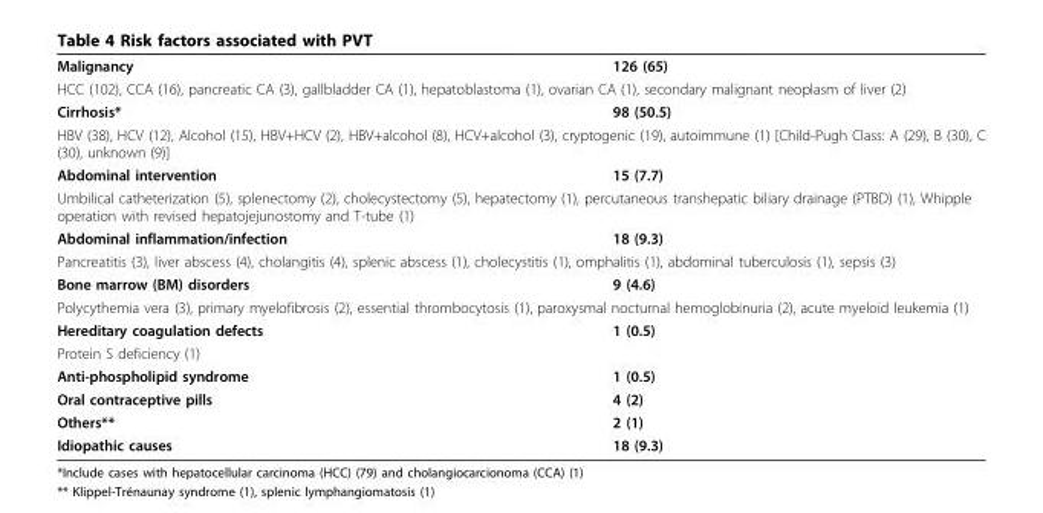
<table><tbody><tr><td>Malignancy</td><td>126 (65)</td></tr><tr><td colspan="2">HCC (102), CCA (16), pancreatic CA (3), gallbladder CA (1), hepatoblastoma (1), ovarian CA (1), secondary malignant neoplasm of liver (2)</td></tr><tr><td>Cirrhosis*</td><td>98 (50.5)</td></tr><tr><td colspan="2">HBV (38), HCV (12), Alcohol (15), HBV+HCV (2), HBV+alcohol (8), HCV+alcohol (3), cryptogenic (19), autoimmune (1) [Child-Pugh Class: A (29), B (30), C (30), unknown (9)]</td></tr><tr><td>Abdominal intervention</td><td>15 (7.7)</td></tr><tr><td colspan="2">Umbilical catheterization (5), splenectomy (2), cholecystectomy (5), hepatectomy (1), percutaneous transhepatic biliary drainage (PTBD) (1), Whipple operation with revised hepatojejunostomy and T-tube (1)</td></tr><tr><td>Abdominal inflammation/infection</td><td>18 (9.3)</td></tr><tr><td colspan="2">Pancreatitis (3), liver abscess (4), cholangitis (4), splenic abscess (1), cholecystitis (1), omphalitis (1), abdominal tuberculosis (1), sepsis (3)</td></tr><tr><td>Bone marrow (BM) disorders</td><td>9 (4.6)</td></tr><tr><td colspan="2">Polycythemia vera (3), primary myelofibrosis (2), essential thrombocytosis (1), paroxysmal nocturnal hemoglobinuria (2), acute myeloid leukemia (1)</td></tr><tr><td>Hereditary coagulation defects</td><td>1 (0.5)</td></tr><tr><td colspan="2">Protein S deficiency (1)</td></tr><tr><td>Anti-phospholipid syndrome</td><td>1 (0.5)</td></tr><tr><td>Oral contraceptive pills</td><td>4 (2)</td></tr><tr><td>Others**</td><td>2 (1)</td></tr><tr><td>Idiopathic causes</td><td>18 (9.3)</td></tr></tbody></table>